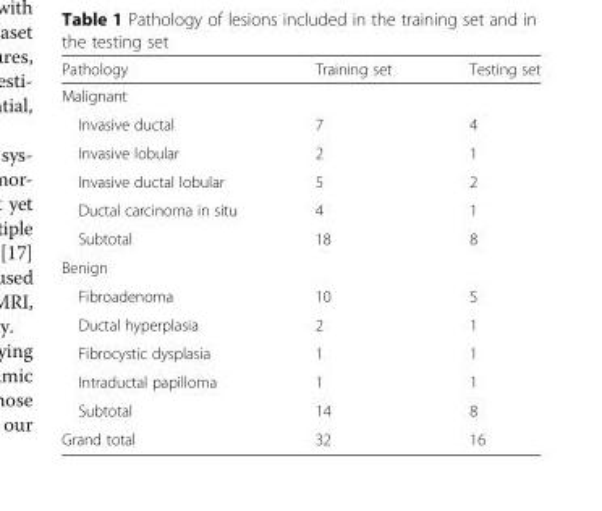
<table><thead><tr><td>Pathology</td><td>Training set</td><td>Testing set</td></tr></thead><tbody><tr><td colspan="3">Malignant</td></tr><tr><td>Invasive ductal</td><td>7</td><td>4</td></tr><tr><td>Invasive lobular</td><td>2</td><td>1</td></tr><tr><td>Invasive ductal lobular</td><td>5</td><td>2</td></tr><tr><td>Ductal carcinoma in situ</td><td>4</td><td>1</td></tr><tr><td>Subtotal</td><td>18</td><td>8</td></tr><tr><td colspan="3">Benign</td></tr><tr><td>Fibroadenoma</td><td>10</td><td>5</td></tr><tr><td>Ductal hyperplasia</td><td>2</td><td>1</td></tr><tr><td>Fibrocystic dysplasia</td><td>1</td><td>1</td></tr><tr><td>Intraductal papilloma</td><td>1</td><td>1</td></tr><tr><td>Subtotal</td><td>14</td><td>8</td></tr><tr><td>Grand total</td><td>32</td><td>16</td></tr></tbody></table>